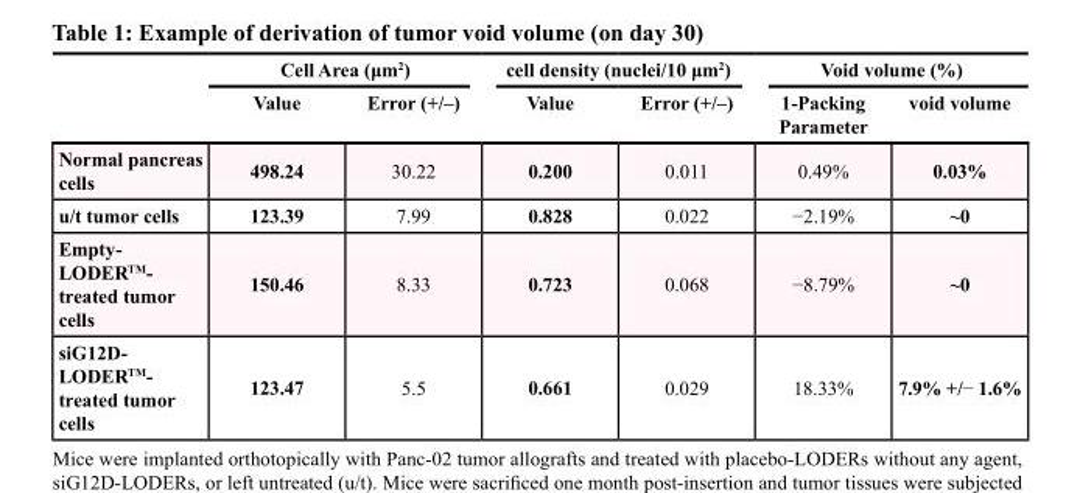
<table><thead><tr><td rowspan="2"></td><td colspan="2">Cell Area (μm<sup>2</sup>)</td><td colspan="2">cell density (nuclei/10 μm<sup>2</sup>)</td><td colspan="2">Void volume (%)</td></tr><tr><td>Value</td><td>Error (+/–)</td><td>Value</td><td>Error (+/–)</td><td>1-Packing Parameter</td><td>void volume</td></tr></thead><tbody><tr><td>Normal pancreas cells</td><td>498.24</td><td>30.22</td><td>0.200</td><td>0.011</td><td>0.49%</td><td>0.03%</td></tr><tr><td>u/t tumor cells</td><td>123.39</td><td>7.99</td><td>0.828</td><td>0.022</td><td>−2.19%</td><td>~0</td></tr><tr><td>Empty- LODER<sup>TM</sup>- treated tumor cells</td><td>150.46</td><td>8.33</td><td>0.723</td><td>0.068</td><td>−8.79%</td><td>~0</td></tr><tr><td>siG12D- LODER<sup>TM</sup>- treated tumor cells</td><td>123.47</td><td>5.5</td><td>0.661</td><td>0.029</td><td>18.33%</td><td>7.9% +/− 1.6%</td></tr></tbody></table>